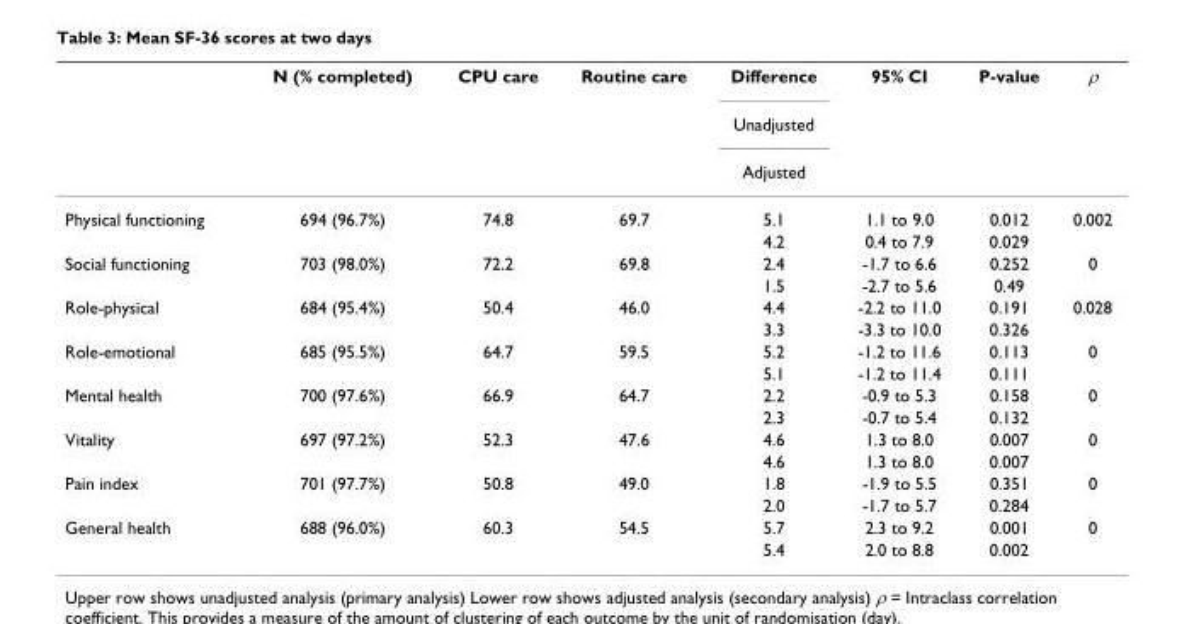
<table><thead><tr><td rowspan="3"></td><td rowspan="3">N (% completed)</td><td rowspan="3">CPU care</td><td rowspan="3">Routine care</td><td rowspan="3">Difference Unadjusted Adjusted</td><td rowspan="3">95% CI</td><td rowspan="3">P-value</td><td rowspan="3">ρ</td></tr><tr></tr><tr></tr></thead><tbody><tr><td rowspan="2">Physical functioning</td><td>694 (96.7%)</td><td>74.8</td><td>69.7</td><td>5.1</td><td>1.1 to 9.0</td><td>0.012</td><td>0.002</td></tr><tr><td></td><td></td><td></td><td>4.2</td><td>0.4 to 7.9</td><td>0.029</td><td></td></tr><tr><td rowspan="2">Social functioning</td><td>703 (98.0%)</td><td>72.2</td><td>69.8</td><td>2.4</td><td>-1.7 to 6.6</td><td>0.252</td><td>0</td></tr><tr><td></td><td></td><td></td><td>1.5</td><td>-2.7 to 5.6</td><td>0.49</td><td></td></tr><tr><td rowspan="2">Role-physical</td><td>684 (95.4%)</td><td>50.4</td><td>46.0</td><td>4.4</td><td>-2.2 to 11.0</td><td>0.191</td><td>0.028</td></tr><tr><td></td><td></td><td></td><td>3.3</td><td>-3.3 to 10.0</td><td>0.326</td><td></td></tr><tr><td rowspan="2">Role-emotional</td><td>685 (95.5%)</td><td>64.7</td><td>59.5</td><td>5.2</td><td>-1.2 to 11.6</td><td>0.113</td><td>0</td></tr><tr><td></td><td></td><td></td><td>5.1</td><td>-1.2 to 11.4</td><td>0.111</td><td></td></tr><tr><td rowspan="2">Mental health</td><td>700 (97.6%)</td><td>66.9</td><td>64.7</td><td>2.2</td><td>-0.9 to 5.3</td><td>0.158</td><td>0</td></tr><tr><td></td><td></td><td></td><td>2.3</td><td>-0.7 to 5.4</td><td>0.132</td><td></td></tr><tr><td rowspan="2">Vitality</td><td>697 (97.2%)</td><td>52.3</td><td>47.6</td><td>4.6</td><td>1.3 to 8.0</td><td>0.007</td><td>0</td></tr><tr><td></td><td></td><td></td><td>4.6</td><td>1.3 to 8.0</td><td>0.007</td><td></td></tr><tr><td rowspan="2">Pain index</td><td>701 (97.7%)</td><td>50.8</td><td>49.0</td><td>1.8</td><td>-1.9 to 5.5</td><td>0.351</td><td>0</td></tr><tr><td></td><td></td><td></td><td>2.0</td><td>-1.7 to 5.7</td><td>0.284</td><td></td></tr><tr><td rowspan="2">General health</td><td>688 (96.0%)</td><td>60.3</td><td>54.5</td><td>5.7</td><td>2.3 to 9.2</td><td>0.001</td><td>0</td></tr><tr><td></td><td></td><td></td><td>5.4</td><td>2.0 to 8.8</td><td>0.002</td><td></td></tr></tbody></table>